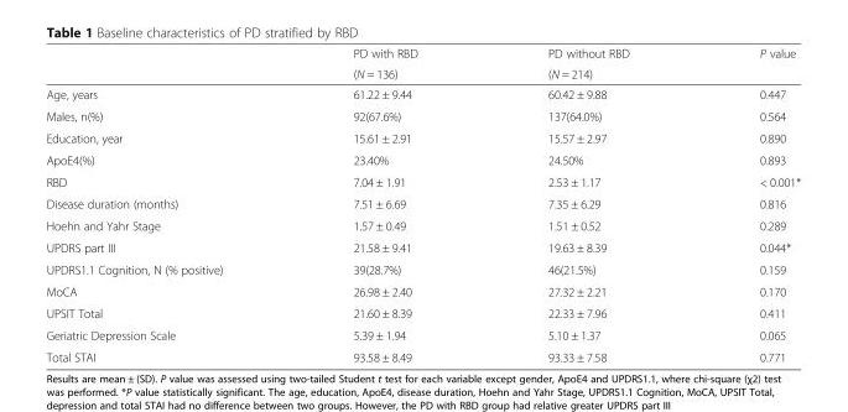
<table><thead><tr><td rowspan="2"></td><td rowspan="2">PD with RBD (N = 136)</td><td rowspan="2">PD without RBD (N = 214)</td><td rowspan="2">P value</td></tr><tr></tr></thead><tbody><tr><td>Age, years</td><td>61.22 ± 9.44</td><td>60.42 ± 9.88</td><td>0.447</td></tr><tr><td>Males, n(%)</td><td>92(67.6%)</td><td>137(64.0%)</td><td>0.564</td></tr><tr><td>Education, year</td><td>15.61 ± 2.91</td><td>15.57 ± 2.97</td><td>0.890</td></tr><tr><td>ApoE4(%)</td><td>23.40%</td><td>24.50%</td><td>0.893</td></tr><tr><td>RBD</td><td>7.04 ± 1.91</td><td>2.53 ± 1.17</td><td>&lt; 0.001*</td></tr><tr><td>Disease duration (months)</td><td>7.51 ± 6.69</td><td>7.35 ± 6.29</td><td>0.816</td></tr><tr><td>Hoehn and Yahr Stage</td><td>1.57 ± 0.49</td><td>1.51 ± 0.52</td><td>0.289</td></tr><tr><td>UPDRS part III</td><td>21.58 ± 9.41</td><td>19.63 ± 8.39</td><td>0.044*</td></tr><tr><td>UPDRS1.1 Cognition, N (% positive)</td><td>39(28.7%)</td><td>46(21.5%)</td><td>0.159</td></tr><tr><td>MoCA</td><td>26.98 ± 2.40</td><td>27.32 ± 2.21</td><td>0.170</td></tr><tr><td>UPSIT Total</td><td>21.60 ± 8.39</td><td>22.33 ± 7.96</td><td>0.411</td></tr><tr><td>Geriatric Depression Scale</td><td>5.39 ± 1.94</td><td>5.10 ± 1.37</td><td>0.065</td></tr><tr><td>Total STAI</td><td>93.58 ± 8.49</td><td>93.33 ± 7.58</td><td>0.771</td></tr></tbody></table>